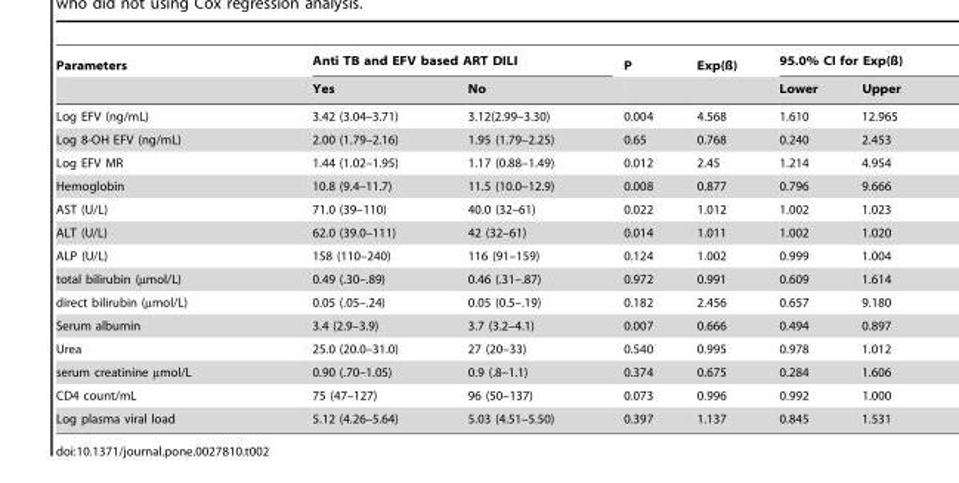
<table><thead><tr><td rowspan="2">Parameters</td><td colspan="2">Anti TB and EFV based ART DILI</td><td rowspan="2">P</td><td rowspan="2">Exp(ß)</td><td colspan="2">95.0% CI for Exp(ß)</td></tr><tr><td>Yes</td><td>No</td><td>Lower</td><td>Upper</td></tr></thead><tbody><tr><td>Log EFV (ng/mL)</td><td>3.42 (3.04–3.71)</td><td>3.12(2.99–3.30)</td><td>0.004</td><td>4.568</td><td>1.610</td><td>12.965</td></tr><tr><td>Log 8-OH EFV (ng/mL)</td><td>2.00 (1.79–2.16)</td><td>1.95 (1.79–2.25)</td><td>0.65</td><td>0.768</td><td>0.240</td><td>2.453</td></tr><tr><td>Log EFV MR</td><td>1.44 (1.02–1.95)</td><td>1.17 (0.88–1.49)</td><td>0.012</td><td>2.45</td><td>1.214</td><td>4.954</td></tr><tr><td>Hemoglobin</td><td>10.8 (9.4–11.7)</td><td>11.5 (10.0–12.9)</td><td>0.008</td><td>0.877</td><td>0.796</td><td>9.666</td></tr><tr><td>AST (U/L)</td><td>71.0 (39–110)</td><td>40.0 (32–61)</td><td>0.022</td><td>1.012</td><td>1.002</td><td>1.023</td></tr><tr><td>ALT (U/L)</td><td>62.0 (39.0–111)</td><td>42 (32–61)</td><td>0.014</td><td>1.011</td><td>1.002</td><td>1.020</td></tr><tr><td>ALP (U/L)</td><td>158 (110–240)</td><td>116 (91–159)</td><td>0.124</td><td>1.002</td><td>0.999</td><td>1.004</td></tr><tr><td>total bilirubin (µmol/L)</td><td>0.49 (.30–.89)</td><td>0.46 (.31–.87)</td><td>0.972</td><td>0.991</td><td>0.609</td><td>1.614</td></tr><tr><td>direct bilirubin (µmol/L)</td><td>0.05 (.05–.24)</td><td>0.05 (0.5–.19)</td><td>0.182</td><td>2.456</td><td>0.657</td><td>9.180</td></tr><tr><td>Serum albumin</td><td>3.4 (2.9–3.9)</td><td>3.7 (3.2–4.1)</td><td>0.007</td><td>0.666</td><td>0.494</td><td>0.897</td></tr><tr><td>Urea</td><td>25.0 (20.0–31.0)</td><td>27 (20–33)</td><td>0.540</td><td>0.995</td><td>0.978</td><td>1.012</td></tr><tr><td>serum creatinine µmol/L</td><td>0.90 (.70–1.05)</td><td>0.9 (.8–1.1)</td><td>0.374</td><td>0.675</td><td>0.284</td><td>1.606</td></tr><tr><td>CD4 count/mL</td><td>75 (47–127)</td><td>96 (50–137)</td><td>0.073</td><td>0.996</td><td>0.992</td><td>1.000</td></tr><tr><td>Log plasma viral load</td><td>5.12 (4.26–5.64)</td><td>5.03 (4.51–5.50)</td><td>0.397</td><td>1.137</td><td>0.845</td><td>1.531</td></tr></tbody></table>